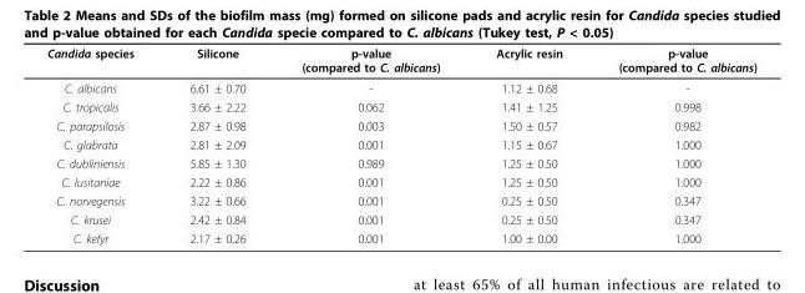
<table><thead><tr><td>Candida species</td><td>Silicone</td><td>p-value (compared to C. albicans)</td><td>Acrylic resin</td><td>p-value (compared to C. albicans)</td></tr></thead><tbody><tr><td>C. albicans</td><td>6.61 ± 0.70</td><td>-</td><td>1.12 ± 0.68</td><td>-</td></tr><tr><td>C. tropicalis</td><td>3.66 ± 2.22</td><td>0.062</td><td>1.41 ± 1.25</td><td>0.998</td></tr><tr><td>C. parapsilosis</td><td>2.87 ± 0.98</td><td>0.003</td><td>1.50 ± 0.57</td><td>0.982</td></tr><tr><td>C. glabrata</td><td>2.81 ± 2.09</td><td>0.001</td><td>1.15 ± 0.67</td><td>1.000</td></tr><tr><td>C. dubliniensis</td><td>5.85 ± 1.30</td><td>0.989</td><td>1.25 ± 0.50</td><td>1.000</td></tr><tr><td>C. lusitaniae</td><td>2.22 ± 0.86</td><td>0.001</td><td>1.25 ± 0.50</td><td>1.000</td></tr><tr><td>C. norvegensis</td><td>3.22 ± 0.66</td><td>0.001</td><td>0.25 ± 0.50</td><td>0.347</td></tr><tr><td>C. krusei</td><td>2.42 ± 0.84</td><td>0.001</td><td>0.25 ± 0.50</td><td>0.347</td></tr><tr><td>C. kefyr</td><td>2.17 ± 0.26</td><td>0.001</td><td>1.00 ± 0.00</td><td>1.000</td></tr></tbody></table>